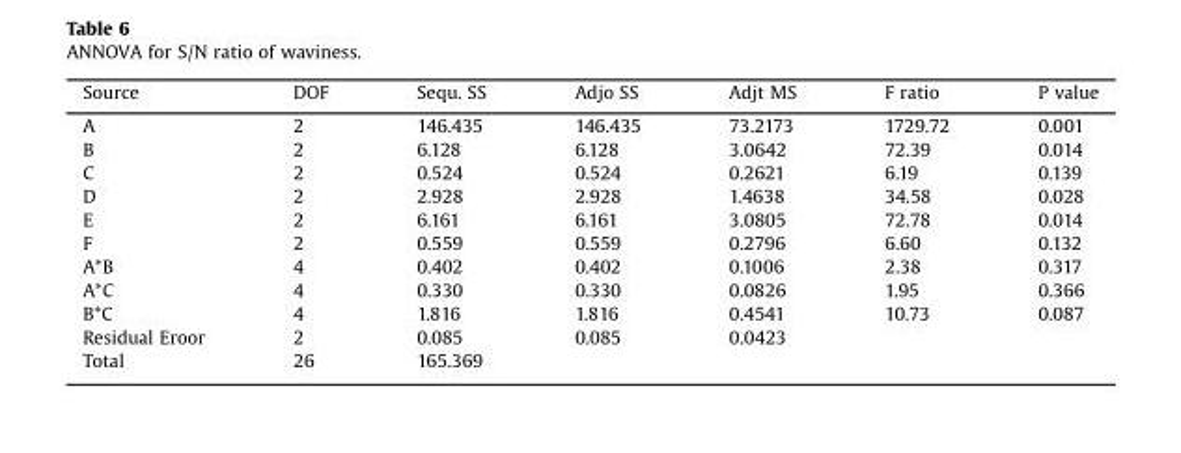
<table><thead><tr><td>Source</td><td>DOF</td><td>Sequ. SS</td><td>Adjo SS</td><td>Adjt MS</td><td>F ratio</td><td>P value</td></tr></thead><tbody><tr><td>A</td><td>2</td><td>146.435</td><td>146.435</td><td>73.2173</td><td>1729.72</td><td>0.001</td></tr><tr><td>B</td><td>2</td><td>6.128</td><td>6.128</td><td>3.0642</td><td>72.39</td><td>0.014</td></tr><tr><td>C</td><td>2</td><td>0.524</td><td>0.524</td><td>0.2621</td><td>6.19</td><td>0.139</td></tr><tr><td>D</td><td>2</td><td>2.928</td><td>2.928</td><td>1.4638</td><td>34.58</td><td>0.028</td></tr><tr><td>E</td><td>2</td><td>6.161</td><td>6.161</td><td>3.0805</td><td>72.78</td><td>0.014</td></tr><tr><td>F</td><td>2</td><td>0.559</td><td>0.559</td><td>0.2796</td><td>6.60</td><td>0.132</td></tr><tr><td>A*B</td><td>4</td><td>0.402</td><td>0.402</td><td>0.1006</td><td>2.38</td><td>0.317</td></tr><tr><td>A*C</td><td>4</td><td>0.330</td><td>0.330</td><td>0.0826</td><td>1.95</td><td>0.366</td></tr><tr><td>B*C</td><td>4</td><td>1.816</td><td>1.816</td><td>0.4541</td><td>10.73</td><td>0.087</td></tr><tr><td>Residual Eroor</td><td>2</td><td>0.085</td><td>0.085</td><td>0.0423</td><td></td><td></td></tr><tr><td>Total</td><td>26</td><td>165.369</td><td></td><td></td><td></td><td></td></tr></tbody></table>